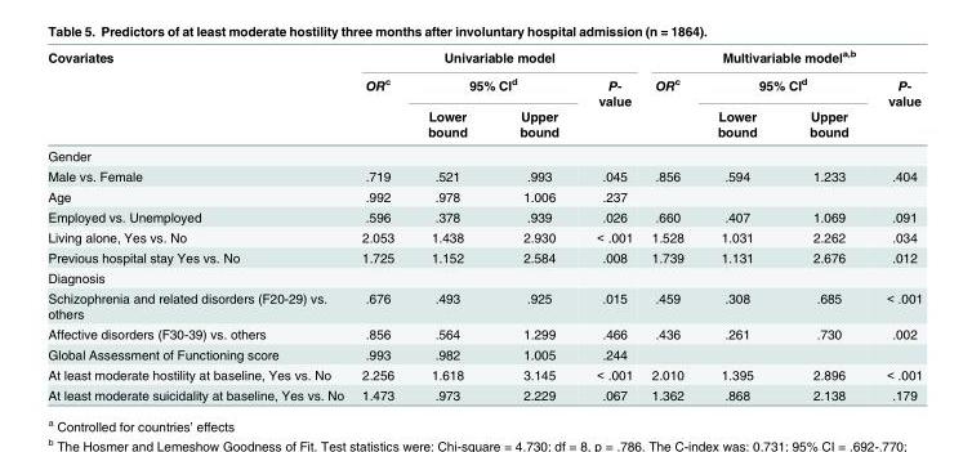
<table><thead><tr><td rowspan="3">Covariates</td><td colspan="4">Univariable model</td><td colspan="4">Multivariable model<sup>a,b</sup></td></tr><tr><td rowspan="2">OR<sup>c</sup></td><td colspan="2">95% CI<sup>d</sup></td><td rowspan="2">P- value</td><td rowspan="2">OR<sup>c</sup></td><td colspan="2">95% CI<sup>d</sup></td><td rowspan="2">P- value</td></tr><tr><td>Lower bound</td><td>Upper bound</td><td>Lower bound</td><td>Upper bound</td></tr></thead><tbody><tr><td colspan="9">Gender</td></tr><tr><td>Male vs. Female</td><td>.719</td><td>.521</td><td>.993</td><td>.045</td><td>.856</td><td>.594</td><td>1.233</td><td>.404</td></tr><tr><td>Age</td><td>.992</td><td>.978</td><td>1.006</td><td>.237</td><td></td><td></td><td></td><td></td></tr><tr><td>Employed vs. Unemployed</td><td>.596</td><td>.378</td><td>.939</td><td>.026</td><td>.660</td><td>.407</td><td>1.069</td><td>.091</td></tr><tr><td>Living alone, Yes vs. No</td><td>2.053</td><td>1.438</td><td>2.930</td><td>&lt; .001</td><td>1.528</td><td>1.031</td><td>2.262</td><td>.034</td></tr><tr><td>Previous hospital stay Yes vs. No</td><td>1.725</td><td>1.152</td><td>2.584</td><td>.008</td><td>1.739</td><td>1.131</td><td>2.676</td><td>.012</td></tr><tr><td colspan="9">Diagnosis</td></tr><tr><td>Schizophrenia and related disorders (F20-29) vs. others</td><td>.676</td><td>.493</td><td>.925</td><td>.015</td><td>.459</td><td>.308</td><td>.685</td><td>&lt; .001</td></tr><tr><td>Affective disorders (F30-39) vs. others</td><td>.856</td><td>.564</td><td>1.299</td><td>.466</td><td>.436</td><td>.261</td><td>.730</td><td>.002</td></tr><tr><td>Global Assessment of Functioning score</td><td>.993</td><td>.982</td><td>1.005</td><td>.244</td><td></td><td></td><td></td><td></td></tr><tr><td>At least moderate hostility at baseline, Yes vs. No</td><td>2.256</td><td>1.618</td><td>3.145</td><td>&lt; .001</td><td>2.010</td><td>1.395</td><td>2.896</td><td>&lt; .001</td></tr><tr><td>At least moderate suicidality at baseline, Yes vs. No</td><td>1.473</td><td>.973</td><td>2.229</td><td>.067</td><td>1.362</td><td>.868</td><td>2.138</td><td>.179</td></tr></tbody></table>